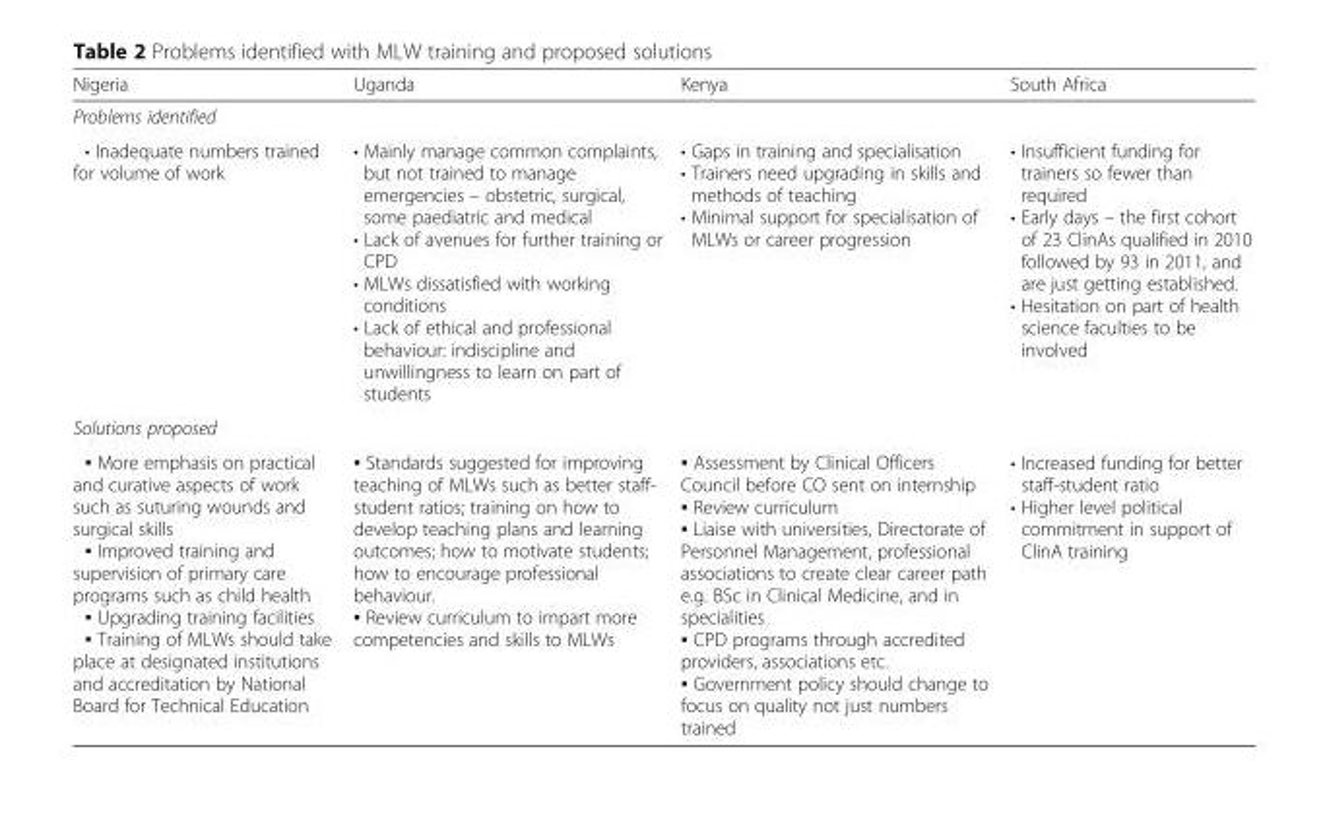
<table><thead><tr><td>Nigeria</td><td>Uganda</td><td>Kenya</td><td>South Africa</td></tr></thead><tbody><tr><td colspan="4">Problems identified</td></tr><tr><td>• Inadequate numbers trained for volume of work</td><td>• Mainly manage common complaints, but not trained to manage emergencies – obstetric, surgical, some paediatric and medical • Lack of avenues for further training or CPD • MLWs dissatisfied with working conditions • Lack of ethical and professional behaviour: indiscipline and unwillingness to learn on part of students</td><td>• Gaps in training and specialisation • Trainers need upgrading in skills and methods of teaching • Minimal support for specialisation of MLWs or career progression</td><td>• Insufficient funding for trainers so fewer than required • Early days – the first cohort of 23 ClinAs qualified in 2010 followed by 93 in 2011, and are just getting established. • Hesitation on part of health science faculties to be involved</td></tr><tr><td colspan="4">Solutions proposed</td></tr><tr><td>▪ More emphasis on practical and curative aspects of work such as suturing wounds and surgical skills ▪ Improved training and supervision of primary care programs such as child health ▪ Upgrading training facilities ▪ Training of MLWs should take place at designated institutions and accreditation by National Board for Technical Education</td><td>▪ Standards suggested for improving teaching of MLWs such as better staff- student ratios; training on how to develop teaching plans and learning outcomes; how to motivate students; how to encourage professional behaviour. ▪ Review curriculum to impart more competencies and skills to MLWs</td><td>▪ Assessment by Clinical Officers Council before CO sent on internship ▪ Review curriculum ▪ Liaise with universities, Directorate of Personnel Management, professional associations to create clear career path e.g. BSc in Clinical Medicine, and in specialities ▪ CPD programs through accredited providers, associations etc. ▪ Government policy should change to focus on quality not just numbers trained</td><td>• Increased funding for better staff-student ratio • Higher level political commitment in support of ClinA training</td></tr></tbody></table>